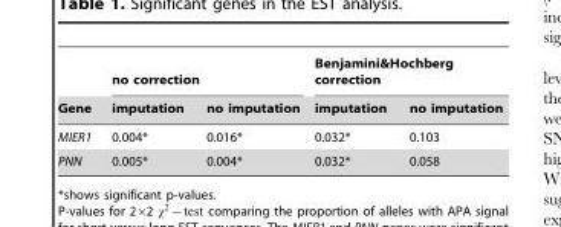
<table><thead><tr><td rowspan="2">Gene</td><td colspan="2">no correction</td><td colspan="2">Benjamini&amp;Hochberg correction</td></tr><tr><td>imputation</td><td>no imputation</td><td>imputation</td><td>no imputation</td></tr></thead><tbody><tr><td>MIER1</td><td>0.004*</td><td>0.016*</td><td>0.032*</td><td>0.103</td></tr><tr><td>PNN</td><td>0.005*</td><td>0.004*</td><td>0.032*</td><td>0.058</td></tr></tbody></table>